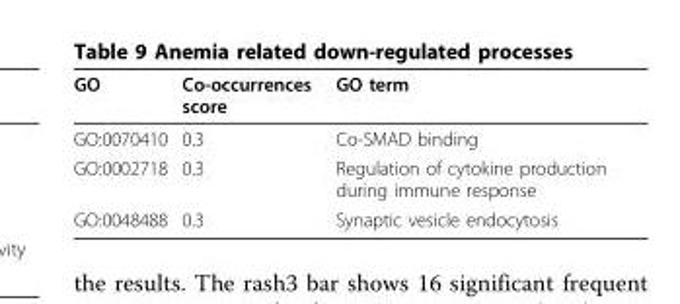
<table><thead><tr><td>GO</td><td>Co-occurrences score</td><td>GO term</td></tr></thead><tbody><tr><td>GO:0070410</td><td>0.3</td><td>Co-SMAD binding</td></tr><tr><td>GO:0002718</td><td>0.3</td><td>Regulation of cytokine production during immune response</td></tr><tr><td>GO:0048488</td><td>0.3</td><td>Synaptic vesicle endocytosis</td></tr></tbody></table>